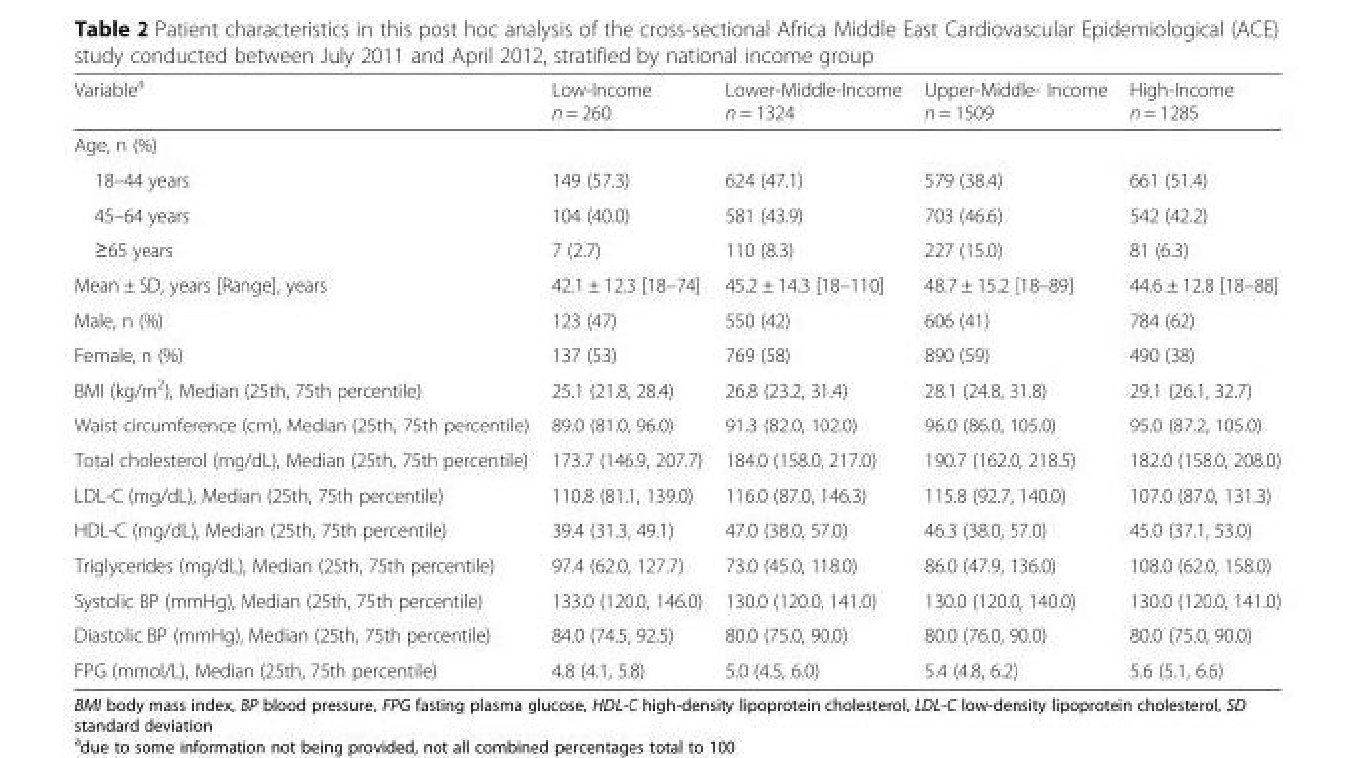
<table><thead><tr><td>Variable<sup>a</sup></td><td>Low-Income n = 260</td><td>Lower-Middle-Income n = 1324</td><td>Upper-Middle- Income n = 1509</td><td>High-Income n = 1285</td></tr></thead><tbody><tr><td colspan="5">Age, n (%)</td></tr><tr><td>18–44 years</td><td>149 (57.3)</td><td>624 (47.1)</td><td>579 (38.4)</td><td>661 (51.4)</td></tr><tr><td>45–64 years</td><td>104 (40.0)</td><td>581 (43.9)</td><td>703 (46.6)</td><td>542 (42.2)</td></tr><tr><td>≥65 years</td><td>7 (2.7)</td><td>110 (8.3)</td><td>227 (15.0)</td><td>81 (6.3)</td></tr><tr><td>Mean ± SD, years [Range], years</td><td>42.1 ± 12.3 [18–74]</td><td>45.2 ± 14.3 [18–110]</td><td>48.7 ± 15.2 [18–89]</td><td>44.6 ± 12.8 [18–88]</td></tr><tr><td>Male, n (%)</td><td>123 (47)</td><td>550 (42)</td><td>606 (41)</td><td>784 (62)</td></tr><tr><td>Female, n (%)</td><td>137 (53)</td><td>769 (58)</td><td>890 (59)</td><td>490 (38)</td></tr><tr><td>BMI (kg/m<sup>2</sup>), Median (25th, 75th percentile)</td><td>25.1 (21.8, 28.4)</td><td>26.8 (23.2, 31.4)</td><td>28.1 (24.8, 31.8)</td><td>29.1 (26.1, 32.7)</td></tr><tr><td>Waist circumference (cm), Median (25th, 75th percentile)</td><td>89.0 (81.0, 96.0)</td><td>91.3 (82.0, 102.0)</td><td>96.0 (86.0, 105.0)</td><td>95.0 (87.2, 105.0)</td></tr><tr><td>Total cholesterol (mg/dL), Median (25th, 75th percentile)</td><td>173.7 (146.9, 207.7)</td><td>184.0 (158.0, 217.0)</td><td>190.7 (162.0, 218.5)</td><td>182.0 (158.0, 208.0)</td></tr><tr><td>LDL-C (mg/dL), Median (25th, 75th percentile)</td><td>110.8 (81.1, 139.0)</td><td>116.0 (87.0, 146.3)</td><td>115.8 (92.7, 140.0)</td><td>107.0 (87.0, 131.3)</td></tr><tr><td>HDL-C (mg/dL), Median (25th, 75th percentile)</td><td>39.4 (31.3, 49.1)</td><td>47.0 (38.0, 57.0)</td><td>46.3 (38.0, 57.0)</td><td>45.0 (37.1, 53.0)</td></tr><tr><td>Triglycerides (mg/dL), Median (25th, 75th percentile)</td><td>97.4 (62.0, 127.7)</td><td>73.0 (45.0, 118.0)</td><td>86.0 (47.9, 136.0)</td><td>108.0 (62.0, 158.0)</td></tr><tr><td>Systolic BP (mmHg), Median (25th, 75th percentile)</td><td>133.0 (120.0, 146.0)</td><td>130.0 (120.0, 141.0)</td><td>130.0 (120.0, 140.0)</td><td>130.0 (120.0, 141.0)</td></tr><tr><td>Diastolic BP (mmHg), Median (25th, 75th percentile)</td><td>84.0 (74.5, 92.5)</td><td>80.0 (75.0, 90.0)</td><td>80.0 (76.0, 90.0)</td><td>80.0 (75.0, 90.0)</td></tr><tr><td>FPG (mmol/L), Median (25th, 75th percentile)</td><td>4.8 (4.1, 5.8)</td><td>5.0 (4.5, 6.0)</td><td>5.4 (4.8, 6.2)</td><td>5.6 (5.1, 6.6)</td></tr></tbody></table>